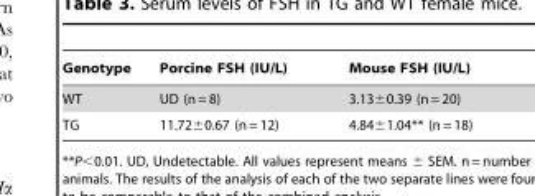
<table><thead><tr><td>Genotype</td><td>Porcine FSH (IU/L)</td><td>Mouse FSH (IU/L)</td></tr></thead><tbody><tr><td>WT</td><td>UD (n = 8)</td><td>3.13±0.39 (n = 20)</td></tr><tr><td>TG</td><td>11.72±0.67 (n = 12)</td><td>4.84±1.04** (n = 18)</td></tr></tbody></table>